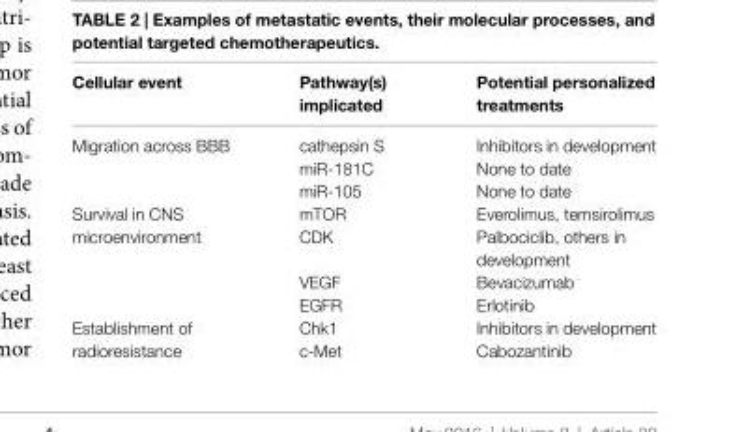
<table><thead><tr><td>Cellular event</td><td>Pathway(s) implicated</td><td>Potential personalized treatments</td></tr></thead><tbody><tr><td rowspan="3">Migration across BBB</td><td>cathepsin S</td><td>Inhibitors in development</td></tr><tr><td>miR-181C</td><td>None to date</td></tr><tr><td>miR-105</td><td>None to date</td></tr><tr><td rowspan="4">Survival in CNS microenvironment</td><td>mTOR</td><td>Everolimus, temsirolimus</td></tr><tr><td>CDK</td><td>Palbociclib, others in development</td></tr><tr><td>VEGF</td><td>Bevacizumab</td></tr><tr><td>EGFR</td><td>Erlotinib</td></tr><tr><td rowspan="2">Establishment of radioresistance</td><td>Chk1</td><td>Inhibitors in development</td></tr><tr><td>c-Met</td><td>Cabozantinib</td></tr></tbody></table>